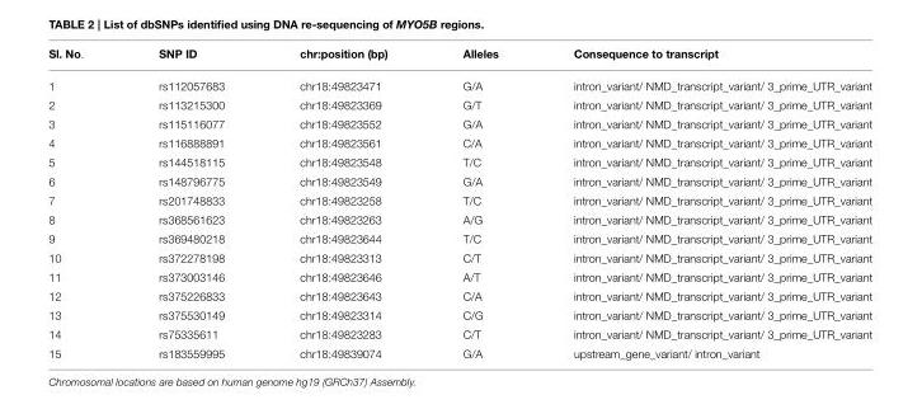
<table><thead><tr><td>Sl. No.</td><td>SNP ID</td><td>chr:position (bp)</td><td>Alleles</td><td>Consequence to transcript</td></tr></thead><tbody><tr><td>1</td><td>rs112057683</td><td>chr18:49823471</td><td>G/A</td><td>intron_variant/ NMD_transcript_variant/ 3_prime_UTR_variant</td></tr><tr><td>2</td><td>rs113215300</td><td>chr18:49823369</td><td>G/T</td><td>intron_variant/ NMD_transcript_variant/ 3_prime_UTR_variant</td></tr><tr><td>3</td><td>rs115116077</td><td>chr18:49823552</td><td>G/A</td><td>intron_variant/ NMD_transcript_variant/ 3_prime_UTR_variant</td></tr><tr><td>4</td><td>rs116888891</td><td>chr18:49823561</td><td>C/A</td><td>intron_variant/ NMD_transcript_variant/ 3_prime_UTR_variant</td></tr><tr><td>5</td><td>rs144518115</td><td>chr18:49823548</td><td>T/C</td><td>intron_variant/ NMD_transcript_variant/ 3_prime_UTR_variant</td></tr><tr><td>6</td><td>rs148796775</td><td>chr18:49823549</td><td>G/A</td><td>intron_variant/ NMD_transcript_variant/ 3_prime_UTR_variant</td></tr><tr><td>7</td><td>rs201748833</td><td>chr18:49823258</td><td>T/C</td><td>intron_variant/ NMD_transcript_variant/ 3_prime_UTR_variant</td></tr><tr><td>8</td><td>rs368561623</td><td>chr18:49823263</td><td>A/G</td><td>intron_variant/ NMD_transcript_variant/ 3_prime_UTR_variant</td></tr><tr><td>9</td><td>rs369480218</td><td>chr18:49823644</td><td>T/C</td><td>intron_variant/ NMD_transcript_variant/ 3_prime_UTR_variant</td></tr><tr><td>10</td><td>rs372278198</td><td>chr18:49823313</td><td>C/T</td><td>intron_variant/ NMD_transcript_variant/ 3_prime_UTR_variant</td></tr><tr><td>11</td><td>rs373003146</td><td>chr18:49823646</td><td>A/T</td><td>intron_variant/ NMD_transcript_variant/ 3_prime_UTR_variant</td></tr><tr><td>12</td><td>rs375226833</td><td>chr18:49823643</td><td>C/A</td><td>intron_variant/ NMD_transcript_variant/ 3_prime_UTR_variant</td></tr><tr><td>13</td><td>rs375530149</td><td>chr18:49823314</td><td>C/G</td><td>intron_variant/ NMD_transcript_variant/ 3_prime_UTR_variant</td></tr><tr><td>14</td><td>rs75335611</td><td>chr18:49823283</td><td>C/T</td><td>intron_variant/ NMD_transcript_variant/ 3_prime_UTR_variant</td></tr><tr><td>15</td><td>rs183559995</td><td>chr18:49839074</td><td>G/A</td><td>upstream_gene_variant/ intron_variant</td></tr></tbody></table>